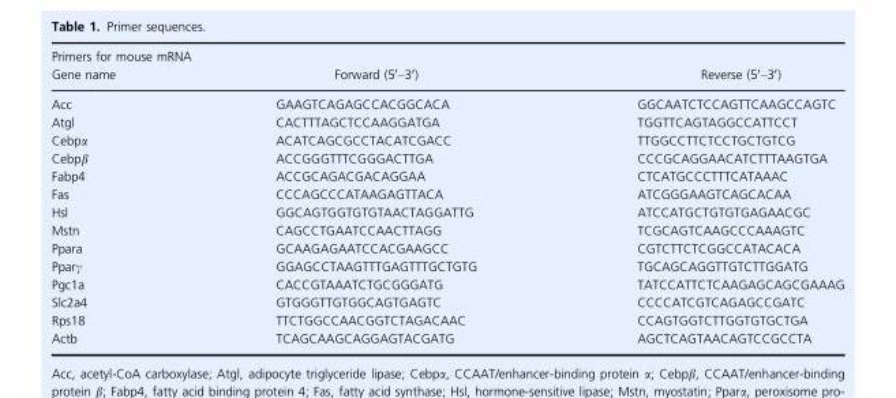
<table><thead><tr><td colspan="3">Primers for mouse mRNA</td></tr><tr><td>Gene name</td><td>Forward (5′–3′)</td><td>Reverse (5′–3′)</td></tr></thead><tbody><tr><td>Acc</td><td>GAAGTCAGAGCCACGGCACA</td><td>GGCAATCTCCAGTTCAAGCCAGTC</td></tr><tr><td>Atgl</td><td>CACTTTAGCTCCAAGGATGA</td><td>TGGTTCAGTAGGCCATTCCT</td></tr><tr><td>Cebpα</td><td>ACATCAGCGCCTACATCGACC</td><td>TTGGCCTTCTCCTGCTGTCG</td></tr><tr><td>Cebpβ</td><td>ACCGGGTTTCGGGACTTGA</td><td>CCCGCAGGAACATCTTTAAGTGA</td></tr><tr><td>Fabp4</td><td>ACCGCAGACGACAGGAA</td><td>CTCATGCCCTTTCATAAAC</td></tr><tr><td>Fas</td><td>CCCAGCCCATAAGAGTTACA</td><td>ATCGGGAAGTCAGCACAA</td></tr><tr><td>Hsl</td><td>GGCAGTGGTGTGTAACTAGGATTG</td><td>ATCCATGCTGTGTGAGAACGC</td></tr><tr><td>Mstn</td><td>CAGCCTGAATCCAACTTAGG</td><td>TCGCAGTCAAGCCCAAAGTC</td></tr><tr><td>Ppara</td><td>GCAAGAGAATCCACGAAGCC</td><td>CGTCTTCTCGGCCATACACA</td></tr><tr><td>Pparγ</td><td>GGAGCCTAAGTTTGAGTTTGCTGTG</td><td>TGCAGCAGGTTGTCTTGGATG</td></tr><tr><td>Pgc1a</td><td>CACCGTAAATCTGCGGGATG</td><td>TATCCATTCTCAAGAGCAGCGAAAG</td></tr><tr><td>Slc2a4</td><td>GTGGGTTGTGGCAGTGAGTC</td><td>CCCCATCGTCAGAGCCGATC</td></tr><tr><td>Rps18</td><td>TTCTGGCCAACGGTCTAGACAAC</td><td>CCAGTGGTCTTGGTGTGCTGA</td></tr><tr><td>Actb</td><td>TCAGCAAGCAGGAGTACGATG</td><td>AGCTCAGTAACAGTCCGCCTA</td></tr></tbody></table>